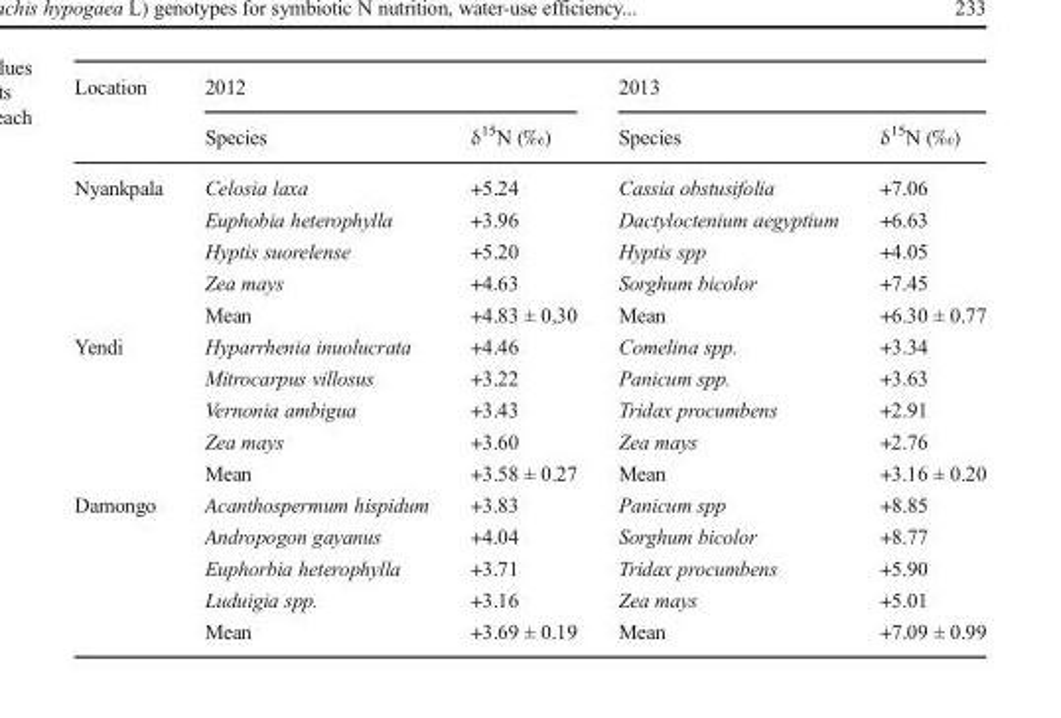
<table><thead><tr><td rowspan="2">Location</td><td colspan="2">2012</td><td colspan="2">2013</td></tr><tr><td>Species</td><td>δ<sup>15</sup>N (‰)</td><td>Species</td><td>δ<sup>15</sup>N (‰)</td></tr></thead><tbody><tr><td rowspan="5">Nyankpala</td><td>Celosia laxa</td><td>+5.24</td><td>Cassia obstusifolia</td><td>+7.06</td></tr><tr><td>Euphobia heterophylla</td><td>+3.96</td><td>Dactyloctenium aegyptium</td><td>+6.63</td></tr><tr><td>Hyptis suorelense</td><td>+5.20</td><td>Hyptis spp</td><td>+4.05</td></tr><tr><td>Zea mays</td><td>+4.63</td><td>Sorghum bicolor</td><td>+7.45</td></tr><tr><td>Mean</td><td>+4.83 ± 0,30</td><td>Mean</td><td>+6.30 ± 0.77</td></tr><tr><td rowspan="5">Yendi</td><td>Hyparrhenia inuolucrata</td><td>+4.46</td><td>Comelina spp.</td><td>+3.34</td></tr><tr><td>Mitrocarpus villosus</td><td>+3.22</td><td>Panicum spp.</td><td>+3.63</td></tr><tr><td>Vernonia ambigua</td><td>+3.43</td><td>Tridax procumbens</td><td>+2.91</td></tr><tr><td>Zea mays</td><td>+3.60</td><td>Zea mays</td><td>+2.76</td></tr><tr><td>Mean</td><td>+3.58 ± 0.27</td><td>Mean</td><td>+3.16 ± 0.20</td></tr><tr><td rowspan="5">Damongo</td><td>Acanthospermum hispidum</td><td>+3.83</td><td>Panicum spp</td><td>+8.85</td></tr><tr><td>Andropogon gayanus</td><td>+4.04</td><td>Sorghum bicolor</td><td>+8.77</td></tr><tr><td>Euphorbia heterophylla</td><td>+3.71</td><td>Tridax procumbens</td><td>+5.90</td></tr><tr><td>Luduigia spp.</td><td>+3.16</td><td>Zea mays</td><td>+5.01</td></tr><tr><td>Mean</td><td>+3.69 ± 0.19</td><td>Mean</td><td>+7.09 ± 0.99</td></tr></tbody></table>